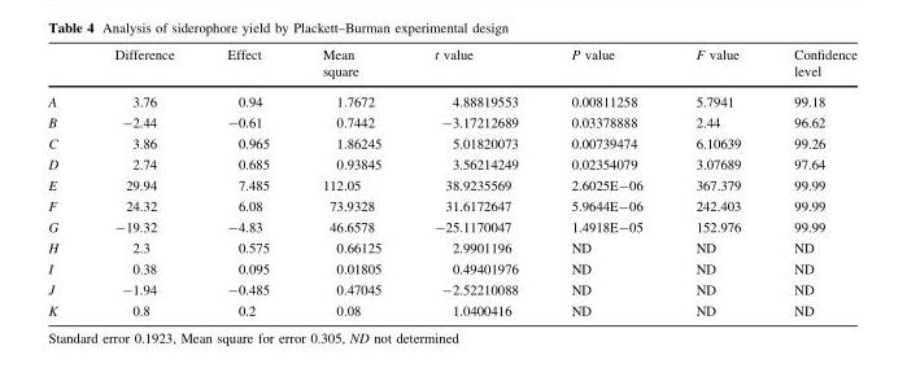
<table><thead><tr><td></td><td>Difference</td><td>Effect</td><td>Mean square</td><td>t value</td><td>P value</td><td>F value</td><td>Confidence level</td></tr></thead><tbody><tr><td>A</td><td>3.76</td><td>0.94</td><td>1.7672</td><td>4.88819553</td><td>0.00811258</td><td>5.7941</td><td>99.18</td></tr><tr><td>B</td><td>-2.44</td><td>-0.61</td><td>0.7442</td><td>-3.17212689</td><td>0.03378888</td><td>2.44</td><td>96.62</td></tr><tr><td>C</td><td>3.86</td><td>0.965</td><td>1.86245</td><td>5.01820073</td><td>0.00739474</td><td>6.10639</td><td>99.26</td></tr><tr><td>D</td><td>2.74</td><td>0.685</td><td>0.93845</td><td>3.56214249</td><td>0.02354079</td><td>3.07689</td><td>97.64</td></tr><tr><td>E</td><td>29.94</td><td>7.485</td><td>112.05</td><td>38.9235569</td><td>2.6025E-06</td><td>367.379</td><td>99.99</td></tr><tr><td>F</td><td>24.32</td><td>6.08</td><td>73.9328</td><td>31.6172647</td><td>5.9644E-06</td><td>242.403</td><td>99.99</td></tr><tr><td>G</td><td>-19.32</td><td>-4.83</td><td>46.6578</td><td>-25.1170047</td><td>1.4918E-05</td><td>152.976</td><td>99.99</td></tr><tr><td>H</td><td>2.3</td><td>0.575</td><td>0.66125</td><td>2.9901196</td><td>ND</td><td>ND</td><td>ND</td></tr><tr><td>I</td><td>0.38</td><td>0.095</td><td>0.01805</td><td>0.49401976</td><td>ND</td><td>ND</td><td>ND</td></tr><tr><td>J</td><td>-1.94</td><td>-0.485</td><td>0.47045</td><td>-2.52210088</td><td>ND</td><td>ND</td><td>ND</td></tr><tr><td>K</td><td>0.8</td><td>0.2</td><td>0.08</td><td>1.0400416</td><td>ND</td><td>ND</td><td>ND</td></tr></tbody></table>